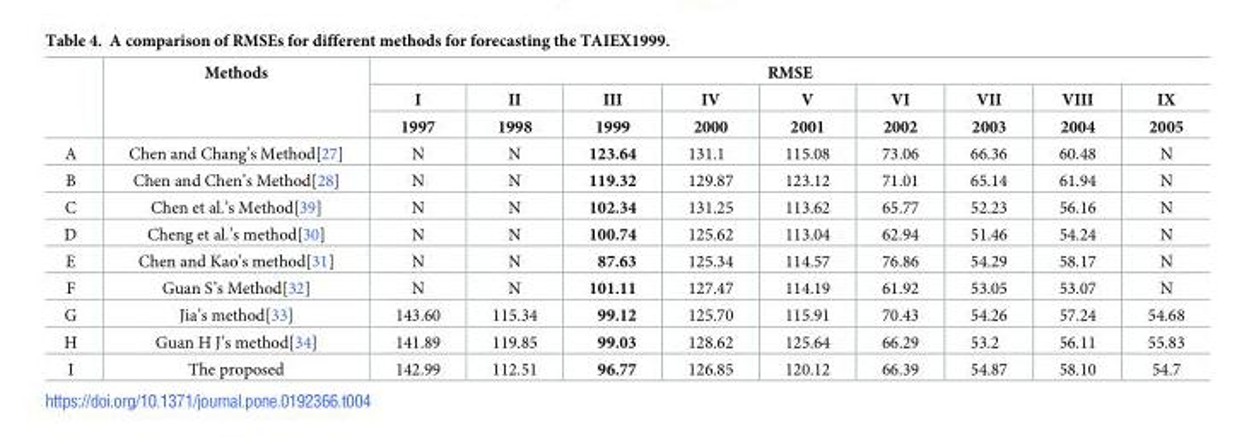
<table><thead><tr><td rowspan="3"></td><td rowspan="3">Methods</td><td colspan="9">RMSE</td></tr><tr><td rowspan="2">I 1997</td><td rowspan="2">II 1998</td><td rowspan="2">III 1999</td><td rowspan="2">IV 2000</td><td rowspan="2">V 2001</td><td rowspan="2">VI 2002</td><td rowspan="2">VII 2003</td><td rowspan="2">VIII 2004</td><td rowspan="2">IX 2005</td></tr><tr></tr></thead><tbody><tr><td>A</td><td>Chen and Chang’s Method[27]</td><td>N</td><td>N</td><td>123.64</td><td>131.1</td><td>115.08</td><td>73.06</td><td>66.36</td><td>60.48</td><td>N</td></tr><tr><td>B</td><td>Chen and Chen’s Method[28]</td><td>N</td><td>N</td><td>119.32</td><td>129.87</td><td>123.12</td><td>71.01</td><td>65.14</td><td>61.94</td><td>N</td></tr><tr><td>C</td><td>Chen et al.’s Method[39]</td><td>N</td><td>N</td><td>102.34</td><td>131.25</td><td>113.62</td><td>65.77</td><td>52.23</td><td>56.16</td><td>N</td></tr><tr><td>D</td><td>Cheng et al.’s method[30]</td><td>N</td><td>N</td><td>100.74</td><td>125.62</td><td>113.04</td><td>62.94</td><td>51.46</td><td>54.24</td><td>N</td></tr><tr><td>E</td><td>Chen and Kao’s method[31]</td><td>N</td><td>N</td><td>87.63</td><td>125.34</td><td>114.57</td><td>76.86</td><td>54.29</td><td>58.17</td><td>N</td></tr><tr><td>F</td><td>Guan S’s Method[32]</td><td>N</td><td>N</td><td>101.11</td><td>127.47</td><td>114.19</td><td>61.92</td><td>53.05</td><td>53.07</td><td>N</td></tr><tr><td>G</td><td>Jia’s method[33]</td><td>143.60</td><td>115.34</td><td>99.12</td><td>125.70</td><td>115.91</td><td>70.43</td><td>54.26</td><td>57.24</td><td>54.68</td></tr><tr><td>H</td><td>Guan H J’s method[34]</td><td>141.89</td><td>119.85</td><td>99.03</td><td>128.62</td><td>125.64</td><td>66.29</td><td>53.2</td><td>56.11</td><td>55.83</td></tr><tr><td>I</td><td>The proposed</td><td>142.99</td><td>112.51</td><td>96.77</td><td>126.85</td><td>120.12</td><td>66.39</td><td>54.87</td><td>58.10</td><td>54.7</td></tr></tbody></table>